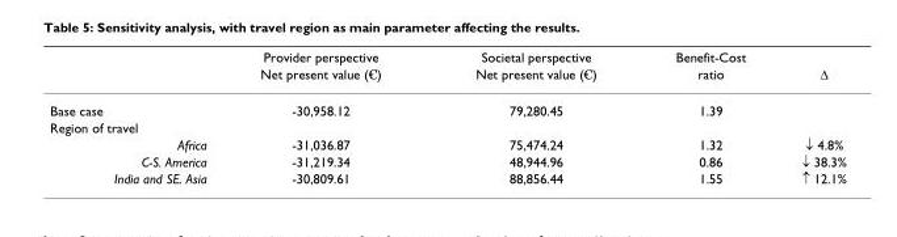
<table><thead><tr><td rowspan="2"></td><td rowspan="2">Provider perspective Net present value (€)</td><td rowspan="2">Societal perspective Net present value (€)</td><td rowspan="2">Benefit-Cost ratio</td><td rowspan="2">Δ</td></tr><tr></tr></thead><tbody><tr><td>Base case</td><td>-30,958.12</td><td>79,280.45</td><td>1.39</td><td></td></tr><tr><td colspan="5">Region of travel</td></tr><tr><td>Africa</td><td>-31,036.87</td><td>75,474.24</td><td>1.32</td><td>↓ 4.8%</td></tr><tr><td>C-S. America</td><td>-31,219.34</td><td>48,944.96</td><td>0.86</td><td>↓ 38.3%</td></tr><tr><td>India and SE. Asia</td><td>-30,809.61</td><td>88,856.44</td><td>1.55</td><td>↑ 12.1%</td></tr></tbody></table>